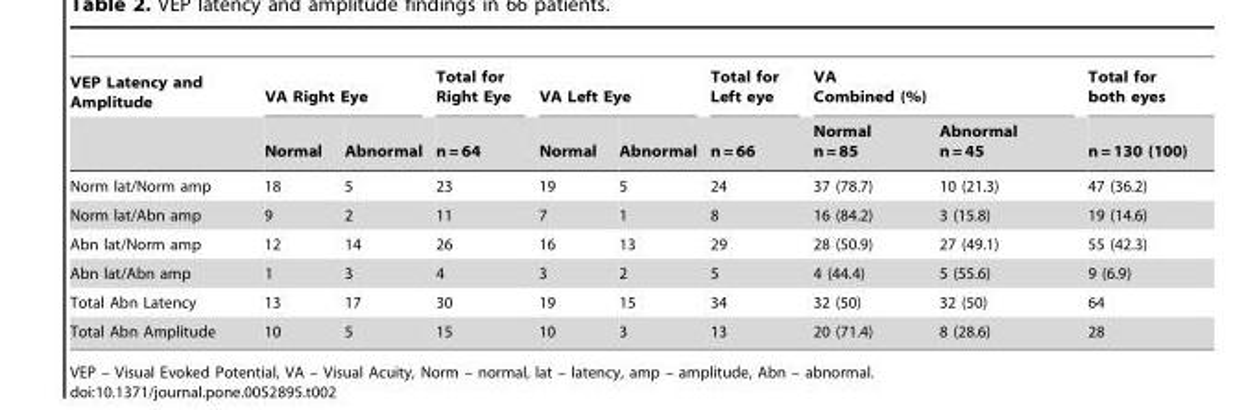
<table><thead><tr><td rowspan="2">VEP Latency and Amplitude</td><td colspan="2">VA Right Eye</td><td rowspan="2">Total for Right Eye n = 64</td><td colspan="2">VA Left Eye</td><td rowspan="2">Total for Left eye n = 66</td><td colspan="2">VA Combined (%)</td><td rowspan="2">Total for both eyes n = 130 (100)</td></tr><tr><td>Normal</td><td>Abnormal</td><td>Normal</td><td>Abnormal</td><td>Normal n = 85</td><td>Abnormal n = 45</td></tr></thead><tbody><tr><td>Norm lat/Norm amp</td><td>18</td><td>5</td><td>23</td><td>19</td><td>5</td><td>24</td><td>37 (78.7)</td><td>10 (21.3)</td><td>47 (36.2)</td></tr><tr><td>Norm lat/Abn amp</td><td>9</td><td>2</td><td>11</td><td>7</td><td>1</td><td>8</td><td>16 (84.2)</td><td>3 (15.8)</td><td>19 (14.6)</td></tr><tr><td>Abn lat/Norm amp</td><td>12</td><td>14</td><td>26</td><td>16</td><td>13</td><td>29</td><td>28 (50.9)</td><td>27 (49.1)</td><td>55 (42.3)</td></tr><tr><td>Abn lat/Abn amp</td><td>1</td><td>3</td><td>4</td><td>3</td><td>2</td><td>5</td><td>4 (44.4)</td><td>5 (55.6)</td><td>9 (6.9)</td></tr><tr><td>Total Abn Latency</td><td>13</td><td>17</td><td>30</td><td>19</td><td>15</td><td>34</td><td>32 (50)</td><td>32 (50)</td><td>64</td></tr><tr><td>Total Abn Amplitude</td><td>10</td><td>5</td><td>15</td><td>10</td><td>3</td><td>13</td><td>20 (71.4)</td><td>8 (28.6)</td><td>28</td></tr></tbody></table>